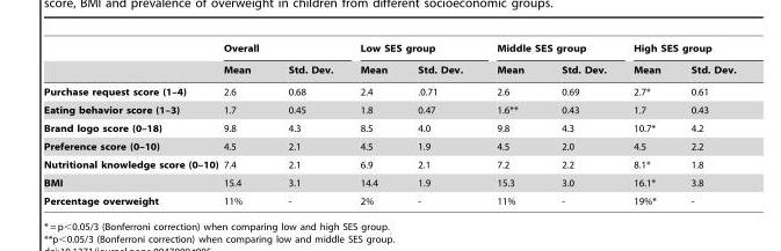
<table><thead><tr><td rowspan="2"></td><td colspan="2">Overall</td><td colspan="2">Low SES group</td><td colspan="2">Middle SES group</td><td colspan="2">High SES group</td></tr><tr><td>Mean</td><td>Std. Dev.</td><td>Mean</td><td>Std. Dev.</td><td>Mean</td><td>Std. Dev.</td><td>Mean</td><td>Std. Dev.</td></tr></thead><tbody><tr><td>Purchase request score (1–4)</td><td>2.6</td><td>0.68</td><td>2.4</td><td>.0.71</td><td>2.6</td><td>0.69</td><td>2.7*</td><td>0.61</td></tr><tr><td>Eating behavior score (1–3)</td><td>1.7</td><td>0.45</td><td>1.8</td><td>0.47</td><td>1.6**</td><td>0.43</td><td>1.7</td><td>0.43</td></tr><tr><td>Brand logo score (0–18)</td><td>9.8</td><td>4.3</td><td>8.5</td><td>4.0</td><td>9.8</td><td>4.3</td><td>10.7*</td><td>4.2</td></tr><tr><td>Preference score (0–10)</td><td>4.5</td><td>2.1</td><td>4.5</td><td>1.9</td><td>4.5</td><td>2.0</td><td>4.5</td><td>2.2</td></tr><tr><td>Nutritional knowledge score (0–10)</td><td>7.4</td><td>2.1</td><td>6.9</td><td>2.1</td><td>7.2</td><td>2.2</td><td>8.1*</td><td>1.8</td></tr><tr><td>BMI</td><td>15.4</td><td>3.1</td><td>14.4</td><td>1.9</td><td>15.3</td><td>3.0</td><td>16.1*</td><td>3.8</td></tr><tr><td>Percentage overweight</td><td>11%</td><td>-</td><td>2%</td><td>-</td><td>11%</td><td>-</td><td>19%*</td><td>-</td></tr></tbody></table>